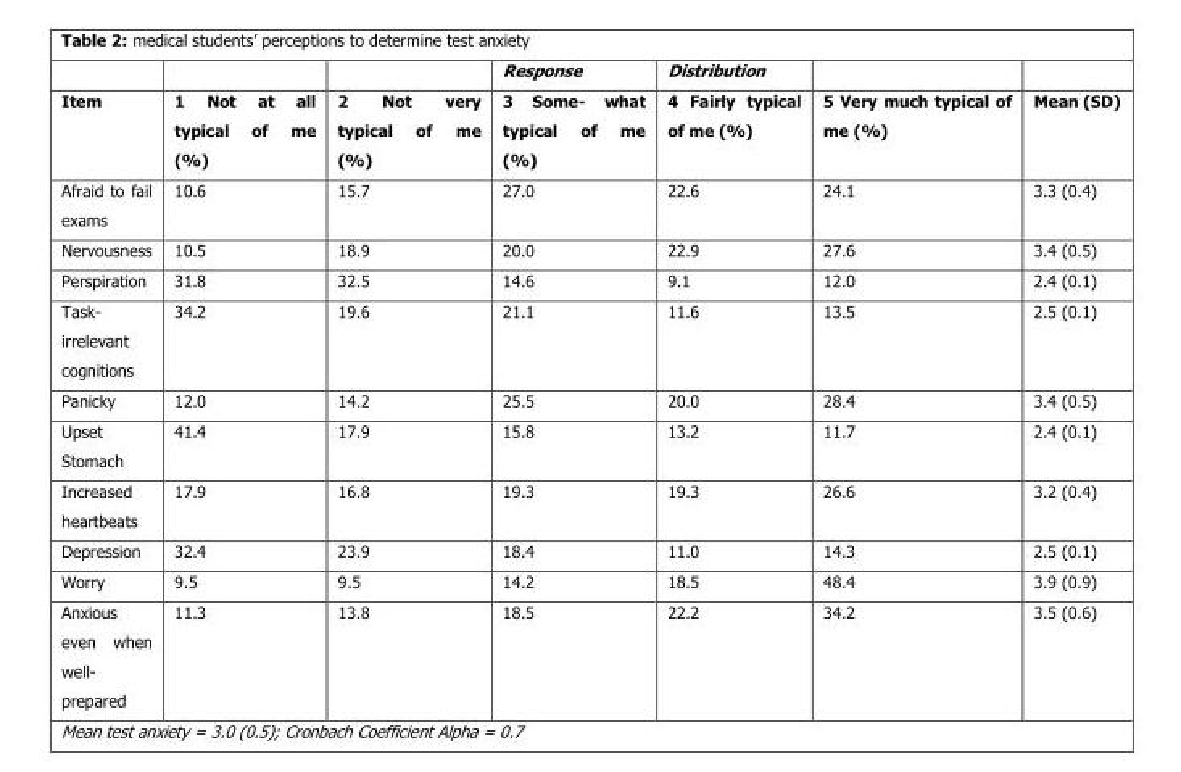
<table><thead><tr><td rowspan="2">Item</td><td rowspan="2">1 Not at all typical of me (%)</td><td rowspan="2">2 Not very typical of me (%)</td><td rowspan="2">Response 3 Some- what typical of me (%)</td><td rowspan="2">Distribution 4 Fairly typical of me (%)</td><td rowspan="2">5 Very much typical of me (%)</td><td rowspan="2">Mean (SD)</td></tr><tr></tr></thead><tbody><tr><td>Afraid to fail exams</td><td>10.6</td><td>15.7</td><td>27.0</td><td>22.6</td><td>24.1</td><td>3.3 (0.4)</td></tr><tr><td>Nervousness</td><td>10.5</td><td>18.9</td><td>20.0</td><td>22.9</td><td>27.6</td><td>3.4 (0.5)</td></tr><tr><td>Perspiration</td><td>31.8</td><td>32.5</td><td>14.6</td><td>9.1</td><td>12.0</td><td>2.4 (0.1)</td></tr><tr><td>Task- irrelevant cognitions</td><td>34.2</td><td>19.6</td><td>21.1</td><td>11.6</td><td>13.5</td><td>2.5 (0.1)</td></tr><tr><td>Panicky</td><td>12.0</td><td>14.2</td><td>25.5</td><td>20.0</td><td>28.4</td><td>3.4 (0.5)</td></tr><tr><td>Upset Stomach</td><td>41.4</td><td>17.9</td><td>15.8</td><td>13.2</td><td>11.7</td><td>2.4 (0.1)</td></tr><tr><td>Increased heartbeats</td><td>17.9</td><td>16.8</td><td>19.3</td><td>19.3</td><td>26.6</td><td>3.2 (0.4)</td></tr><tr><td>Depression</td><td>32.4</td><td>23.9</td><td>18.4</td><td>11.0</td><td>14.3</td><td>2.5 (0.1)</td></tr><tr><td>Worry</td><td>9.5</td><td>9.5</td><td>14.2</td><td>18.5</td><td>48.4</td><td>3.9 (0.9)</td></tr><tr><td>Anxious even when well- prepared</td><td>11.3</td><td>13.8</td><td>18.5</td><td>22.2</td><td>34.2</td><td>3.5 (0.6)</td></tr></tbody></table>